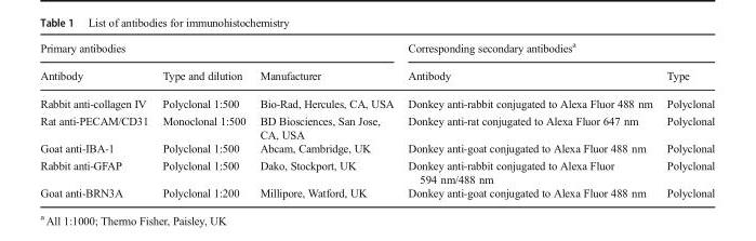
<table><thead><tr><td colspan="3">Primary antibodies</td><td colspan="2">Corresponding secondary antibodies<sup>a</sup></td></tr><tr><td>Antibody</td><td>Type and dilution</td><td>Manufacturer</td><td>Antibody</td><td>Type</td></tr></thead><tbody><tr><td>Rabbit anti-collagen IV</td><td>Polyclonal 1:500</td><td>Bio-Rad, Hercules, CA, USA</td><td>Donkey anti-rabbit conjugated to Alexa Fluor 488 nm</td><td>Polyclonal</td></tr><tr><td>Rat anti-PECAM/CD31</td><td>Monoclonal 1:500</td><td>BD Biosciences, San Jose, CA, USA</td><td>Donkey anti-rat conjugated to Alexa Fluor 647 nm</td><td>Polyclonal</td></tr><tr><td>Goat anti-IBA-1</td><td>Polyclonal 1:500</td><td>Abcam, Cambridge, UK</td><td>Donkey anti-goat conjugated to Alexa Fluor 488 nm</td><td>Polyclonal</td></tr><tr><td>Rabbit anti-GFAP</td><td>Polyclonal 1:500</td><td>Dako, Stockport, UK</td><td>Donkey anti-rabbit conjugated to Alexa Fluor 594 nm/488 nm</td><td>Polyclonal</td></tr><tr><td>Goat anti-BRN3A</td><td>Polyclonal 1:200</td><td>Millipore, Watford, UK</td><td>Donkey anti-goat conjugated to Alexa Fluor 488 nm</td><td>Polyclonal</td></tr></tbody></table>